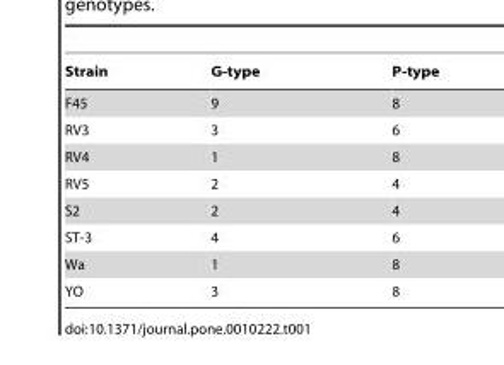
<table><thead><tr><td>Strain</td><td>G-type</td><td>P-type</td></tr></thead><tbody><tr><td>F45</td><td>9</td><td>8</td></tr><tr><td>RV3</td><td>3</td><td>6</td></tr><tr><td>RV4</td><td>1</td><td>8</td></tr><tr><td>RV5</td><td>2</td><td>4</td></tr><tr><td>S2</td><td>2</td><td>4</td></tr><tr><td>ST-3</td><td>4</td><td>6</td></tr><tr><td>Wa</td><td>1</td><td>8</td></tr><tr><td>YO</td><td>3</td><td>8</td></tr></tbody></table>